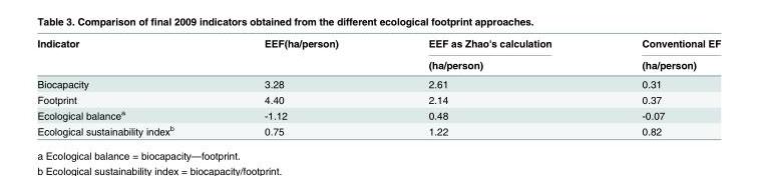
<table><thead><tr><td rowspan="2">Indicator</td><td rowspan="2">EEF(ha/person)</td><td rowspan="2">EEF as Zhao&#x27;s calculation (ha/person)</td><td rowspan="2">Conventional EF (ha/person)</td></tr><tr></tr></thead><tbody><tr><td>Biocapacity</td><td>3.28</td><td>2.61</td><td>0.31</td></tr><tr><td>Footprint</td><td>4.40</td><td>2.14</td><td>0.37</td></tr><tr><td>Ecological balance<sup>a</sup></td><td>-1.12</td><td>0.48</td><td>-0.07</td></tr><tr><td>Ecological sustainability index<sup>b</sup></td><td>0.75</td><td>1.22</td><td>0.82</td></tr></tbody></table>